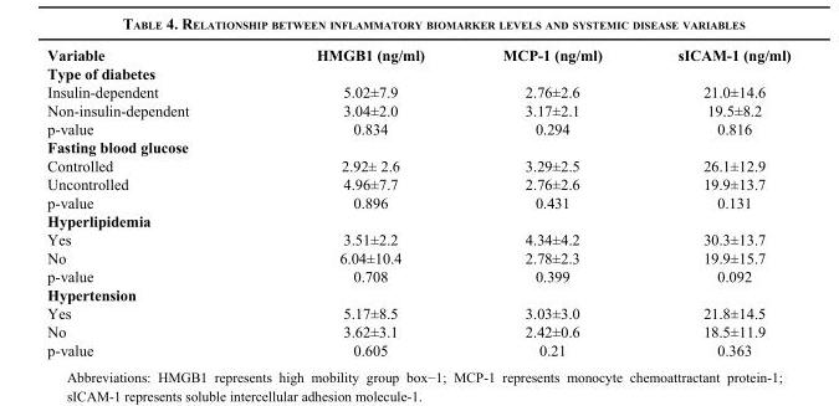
<table><thead><tr><td>Variable</td><td>HMGB1 (ng/ml)</td><td>MCP-1 (ng/ml)</td><td>sICAM-1 (ng/ml)</td></tr></thead><tbody><tr><td colspan="4">Type of diabetes</td></tr><tr><td>Insulin-dependent</td><td>5.02±7.9</td><td>2.76±2.6</td><td>21.0±14.6</td></tr><tr><td>Non-insulin-dependent</td><td>3.04±2.0</td><td>3.17±2.1</td><td>19.5±8.2</td></tr><tr><td>p-value</td><td>0.834</td><td>0.294</td><td>0.816</td></tr><tr><td colspan="4">Fasting blood glucose</td></tr><tr><td>Controlled</td><td>2.92± 2.6</td><td>3.29±2.5</td><td>26.1±12.9</td></tr><tr><td>Uncontrolled</td><td>4.96±7.7</td><td>2.76±2.6</td><td>19.9±13.7</td></tr><tr><td>p-value</td><td>0.896</td><td>0.431</td><td>0.131</td></tr><tr><td colspan="4">Hyperlipidemia</td></tr><tr><td>Yes</td><td>3.51±2.2</td><td>4.34±4.2</td><td>30.3±13.7</td></tr><tr><td>No</td><td>6.04±10.4</td><td>2.78±2.3</td><td>19.9±15.7</td></tr><tr><td>p-value</td><td>0.708</td><td>0.399</td><td>0.092</td></tr><tr><td colspan="4">Hypertension</td></tr><tr><td>Yes</td><td>5.17±8.5</td><td>3.03±3.0</td><td>21.8±14.5</td></tr><tr><td>No</td><td>3.62±3.1</td><td>2.42±0.6</td><td>18.5±11.9</td></tr><tr><td>p-value</td><td>0.605</td><td>0.21</td><td>0.363</td></tr></tbody></table>